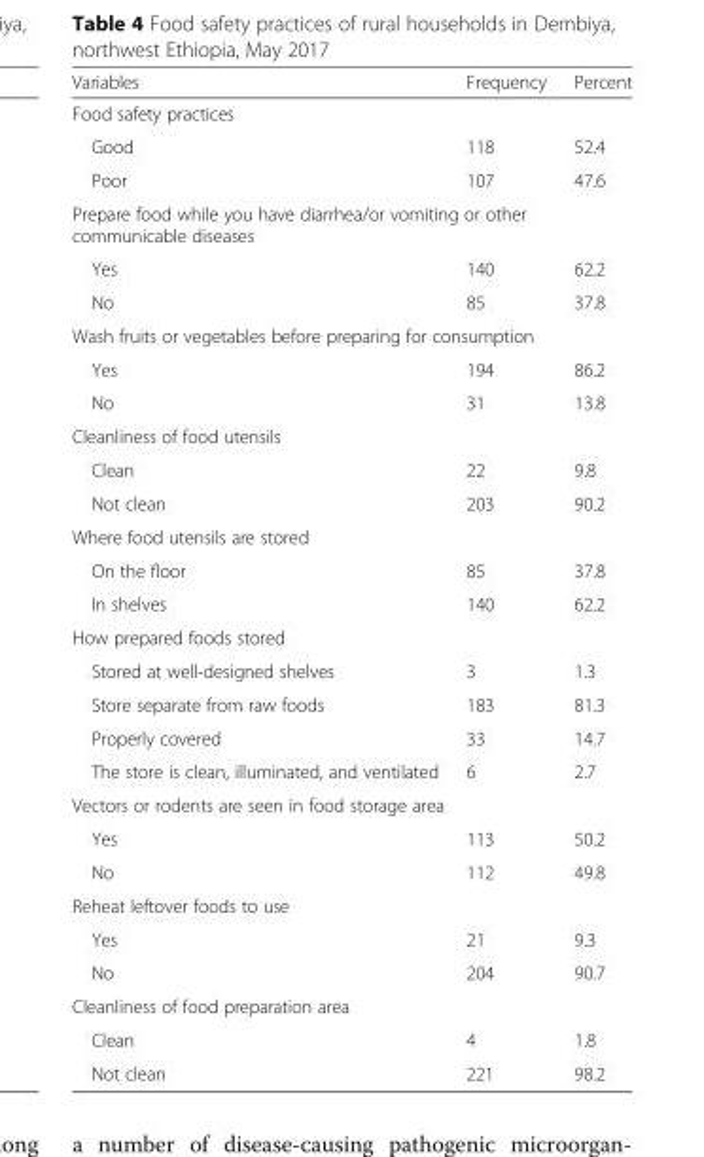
<table><thead><tr><td>Variables</td><td>Frequency</td><td>Percent</td></tr></thead><tbody><tr><td colspan="3">Food safety practices</td></tr><tr><td>Good</td><td>118</td><td>52.4</td></tr><tr><td>Poor</td><td>107</td><td>47.6</td></tr><tr><td colspan="3">Prepare food while you have diarrhea/or vomiting or other communicable diseases</td></tr><tr><td>Yes</td><td>140</td><td>62.2</td></tr><tr><td>No</td><td>85</td><td>37.8</td></tr><tr><td colspan="3">Wash fruits or vegetables before preparing for consumption</td></tr><tr><td>Yes</td><td>194</td><td>86.2</td></tr><tr><td>No</td><td>31</td><td>13.8</td></tr><tr><td colspan="3">Cleanliness of food utensils</td></tr><tr><td>Clean</td><td>22</td><td>9.8</td></tr><tr><td>Not clean</td><td>203</td><td>90.2</td></tr><tr><td colspan="3">Where food utensils are stored</td></tr><tr><td>On the floor</td><td>85</td><td>37.8</td></tr><tr><td>In shelves</td><td>140</td><td>62.2</td></tr><tr><td colspan="3">How prepared foods stored</td></tr><tr><td>Stored at well-designed shelves</td><td>3</td><td>1.3</td></tr><tr><td>Store separate from raw foods</td><td>183</td><td>81.3</td></tr><tr><td>Properly covered</td><td>33</td><td>14.7</td></tr><tr><td>The store is clean, illuminated, and ventilated</td><td>6</td><td>2.7</td></tr><tr><td colspan="3">Vectors or rodents are seen in food storage area</td></tr><tr><td>Yes</td><td>113</td><td>50.2</td></tr><tr><td>No</td><td>112</td><td>49.8</td></tr><tr><td colspan="3">Reheat leftover foods to use</td></tr><tr><td>Yes</td><td>21</td><td>9.3</td></tr><tr><td>No</td><td>204</td><td>90.7</td></tr><tr><td colspan="3">Cleanliness of food preparation area</td></tr><tr><td>Clean</td><td>4</td><td>1.8</td></tr><tr><td>Not clean</td><td>221</td><td>98.2</td></tr></tbody></table>